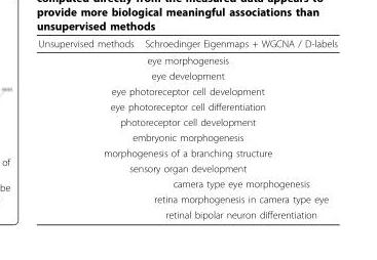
<table><thead><tr><td>Unsupervised methods</td><td>Schroedinger Eigenmaps + WGCNA / D-labels</td></tr></thead><tbody><tr><td colspan="2">eye morphogenesis</td></tr><tr><td colspan="2">eye development</td></tr><tr><td colspan="2">eye photoreceptor cell development</td></tr><tr><td colspan="2">eye photoreceptor cell differentiation</td></tr><tr><td colspan="2">photoreceptor cell development</td></tr><tr><td colspan="2">embryonic morphogenesis</td></tr><tr><td colspan="2">morphogenesis of a branching structure</td></tr><tr><td colspan="2">sensory organ development</td></tr><tr><td></td><td>camera type eye morphogenesis</td></tr><tr><td></td><td>retina morphogenesis in camera type eye</td></tr><tr><td></td><td>retinal bipolar neuron differentiation</td></tr></tbody></table>